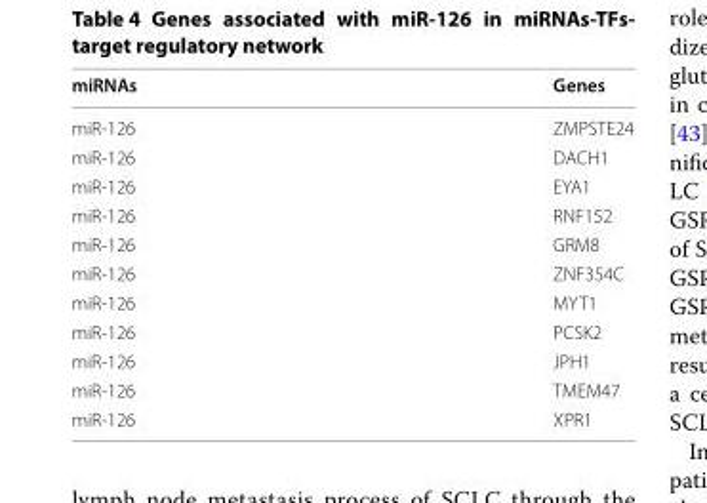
<table><thead><tr><td>miRNAs</td><td>Genes</td></tr></thead><tbody><tr><td>miR-126</td><td>ZMPSTE24</td></tr><tr><td>miR-126</td><td>DACH1</td></tr><tr><td>miR-126</td><td>EYA1</td></tr><tr><td>miR-126</td><td>RNF152</td></tr><tr><td>miR-126</td><td>GRM8</td></tr><tr><td>miR-126</td><td>ZNF354C</td></tr><tr><td>miR-126</td><td>MYT1</td></tr><tr><td>miR-126</td><td>PCSK2</td></tr><tr><td>miR-126</td><td>JPH1</td></tr><tr><td>miR-126</td><td>TMEM47</td></tr><tr><td>miR-126</td><td>XPR1</td></tr></tbody></table>